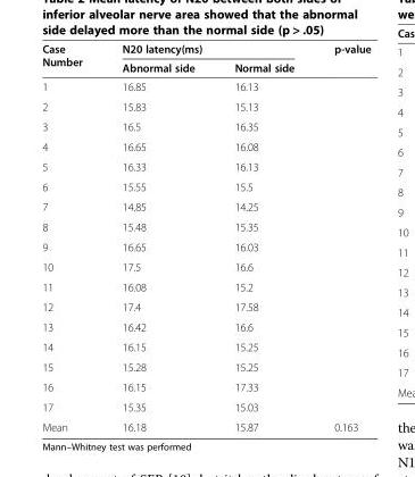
<table><thead><tr><td rowspan="2">Case Number</td><td colspan="2">N20 latency(ms)</td><td rowspan="2">p-value</td></tr><tr><td>Abnormal side</td><td>Normal side</td></tr></thead><tbody><tr><td>1</td><td>16.85</td><td>16.13</td><td rowspan="17"></td></tr><tr><td>2</td><td>15.83</td><td>15.13</td></tr><tr><td>3</td><td>16.5</td><td>16.35</td></tr><tr><td>4</td><td>16.65</td><td>16.08</td></tr><tr><td>5</td><td>16.33</td><td>16.13</td></tr><tr><td>6</td><td>15.55</td><td>15.5</td></tr><tr><td>7</td><td>14.85</td><td>14.25</td></tr><tr><td>8</td><td>15.48</td><td>15.35</td></tr><tr><td>9</td><td>16.65</td><td>16.03</td></tr><tr><td>10</td><td>17.5</td><td>16.6</td></tr><tr><td>11</td><td>16.08</td><td>15.2</td></tr><tr><td>12</td><td>17.4</td><td>17.58</td></tr><tr><td>13</td><td>16.42</td><td>16.6</td></tr><tr><td>14</td><td>16.15</td><td>15.25</td></tr><tr><td>15</td><td>15.28</td><td>15.25</td></tr><tr><td>16</td><td>16.15</td><td>17.33</td></tr><tr><td>17</td><td>15.35</td><td>15.03</td></tr><tr><td>Mean</td><td>16.18</td><td>15.87</td><td>0.163</td></tr></tbody></table>